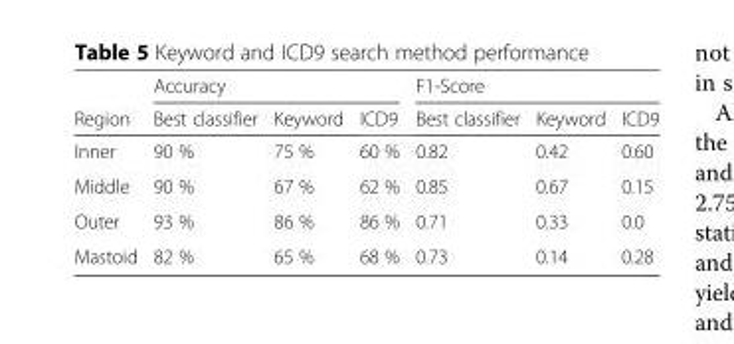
<table><thead><tr><td rowspan="2">Region</td><td colspan="3">Accuracy</td><td colspan="3">F1-Score</td></tr><tr><td>Best classifier</td><td>Keyword</td><td>ICD9</td><td>Best classifier</td><td>Keyword</td><td>ICD9</td></tr></thead><tbody><tr><td>Inner</td><td>90 %</td><td>75 %</td><td>60 %</td><td>0.82</td><td>0.42</td><td>0.60</td></tr><tr><td>Middle</td><td>90 %</td><td>67 %</td><td>62 %</td><td>0.85</td><td>0.67</td><td>0.15</td></tr><tr><td>Outer</td><td>93 %</td><td>86 %</td><td>86 %</td><td>0.71</td><td>0.33</td><td>0.0</td></tr><tr><td>Mastoid</td><td>82 %</td><td>65 %</td><td>68 %</td><td>0.73</td><td>0.14</td><td>0.28</td></tr></tbody></table>